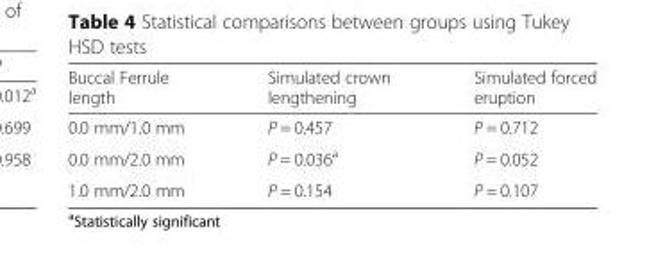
<table><thead><tr><td>Buccal Ferrule length</td><td>Simulated crown lengthening</td><td>Simulated forced eruption</td></tr></thead><tbody><tr><td>0.0 mm/1.0 mm</td><td>P = 0.457</td><td>P = 0.712</td></tr><tr><td>0.0 mm/2.0 mm</td><td>P = 0.036<sup>a</sup></td><td>P = 0.052</td></tr><tr><td>1.0 mm/2.0 mm</td><td>P = 0.154</td><td>P = 0.107</td></tr></tbody></table>